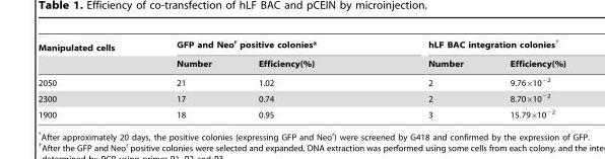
<table><thead><tr><td rowspan="2">Manipulated cells</td><td colspan="2">GFP and Neo<sup>r</sup> positive colonies*</td><td colspan="2">hLF BAC integration colonies†</td></tr><tr><td>Number</td><td>Efficiency(%)</td><td>Number</td><td>Efficiency(%)</td></tr></thead><tbody><tr><td>2050</td><td>21</td><td>1.02</td><td>2</td><td>9.76×10<sup>−2</sup></td></tr><tr><td>2300</td><td>17</td><td>0.74</td><td>2</td><td>8.70×10<sup>−2</sup></td></tr><tr><td>1900</td><td>18</td><td>0.95</td><td>3</td><td>15.79×10<sup>−2</sup></td></tr></tbody></table>